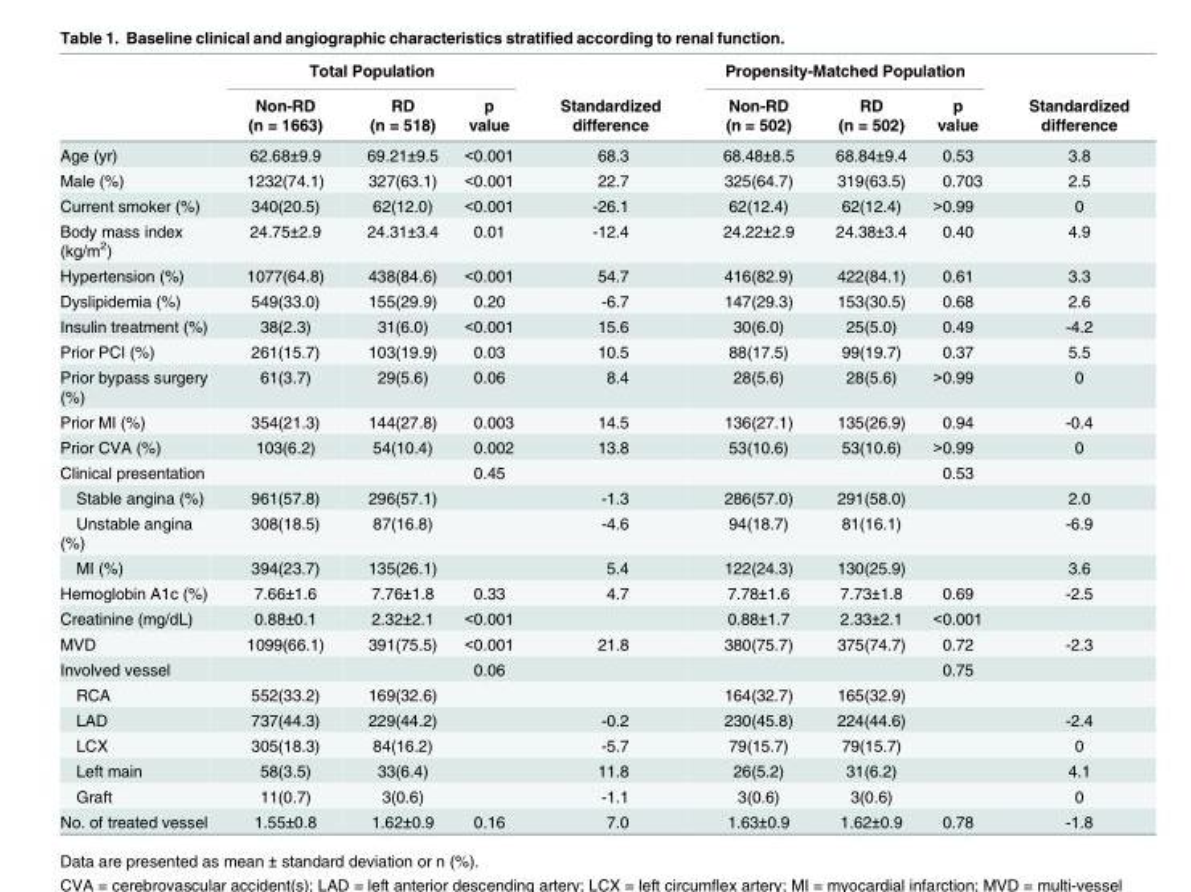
<table><thead><tr><td rowspan="2"></td><td colspan="3">Total Population</td><td rowspan="2">Standardized difference</td><td colspan="3">Propensity-Matched Population</td><td rowspan="2">Standardized difference</td></tr><tr><td>Non-RD (n = 1663)</td><td>RD (n = 518)</td><td>p value</td><td>Non-RD (n = 502)</td><td>RD (n = 502)</td><td>p value</td></tr></thead><tbody><tr><td>Age (yr)</td><td>62.68±9.9</td><td>69.21±9.5</td><td>&lt;0.001</td><td>68.3</td><td>68.48±8.5</td><td>68.84±9.4</td><td>0.53</td><td>3.8</td></tr><tr><td>Male (%)</td><td>1232(74.1)</td><td>327(63.1)</td><td>&lt;0.001</td><td>22.7</td><td>325(64.7)</td><td>319(63.5)</td><td>0.703</td><td>2.5</td></tr><tr><td>Current smoker (%)</td><td>340(20.5)</td><td>62(12.0)</td><td>&lt;0.001</td><td>-26.1</td><td>62(12.4)</td><td>62(12.4)</td><td>&gt;0.99</td><td>0</td></tr><tr><td>Body mass index (kg/m<sup>2</sup>)</td><td>24.75±2.9</td><td>24.31±3.4</td><td>0.01</td><td>-12.4</td><td>24.22±2.9</td><td>24.38±3.4</td><td>0.40</td><td>4.9</td></tr><tr><td>Hypertension (%)</td><td>1077(64.8)</td><td>438(84.6)</td><td>&lt;0.001</td><td>54.7</td><td>416(82.9)</td><td>422(84.1)</td><td>0.61</td><td>3.3</td></tr><tr><td>Dyslipidemia (%)</td><td>549(33.0)</td><td>155(29.9)</td><td>0.20</td><td>-6.7</td><td>147(29.3)</td><td>153(30.5)</td><td>0.68</td><td>2.6</td></tr><tr><td>Insulin treatment (%)</td><td>38(2.3)</td><td>31(6.0)</td><td>&lt;0.001</td><td>15.6</td><td>30(6.0)</td><td>25(5.0)</td><td>0.49</td><td>-4.2</td></tr><tr><td>Prior PCI (%)</td><td>261(15.7)</td><td>103(19.9)</td><td>0.03</td><td>10.5</td><td>88(17.5)</td><td>99(19.7)</td><td>0.37</td><td>5.5</td></tr><tr><td>Prior bypass surgery (%)</td><td>61(3.7)</td><td>29(5.6)</td><td>0.06</td><td>8.4</td><td>28(5.6)</td><td>28(5.6)</td><td>&gt;0.99</td><td>0</td></tr><tr><td>Prior MI (%)</td><td>354(21.3)</td><td>144(27.8)</td><td>0.003</td><td>14.5</td><td>136(27.1)</td><td>135(26.9)</td><td>0.94</td><td>-0.4</td></tr><tr><td>Prior CVA (%)</td><td>103(6.2)</td><td>54(10.4)</td><td>0.002</td><td>13.8</td><td>53(10.6)</td><td>53(10.6)</td><td>&gt;0.99</td><td>0</td></tr><tr><td>Clinical presentation</td><td></td><td></td><td>0.45</td><td></td><td></td><td></td><td>0.53</td><td></td></tr><tr><td>Stable angina (%)</td><td>961(57.8)</td><td>296(57.1)</td><td></td><td>-1.3</td><td>286(57.0)</td><td>291(58.0)</td><td></td><td>2.0</td></tr><tr><td>Unstable angina (%)</td><td>308(18.5)</td><td>87(16.8)</td><td></td><td>-4.6</td><td>94(18.7)</td><td>81(16.1)</td><td></td><td>-6.9</td></tr><tr><td>MI (%)</td><td>394(23.7)</td><td>135(26.1)</td><td></td><td>5.4</td><td>122(24.3)</td><td>130(25.9)</td><td></td><td>3.6</td></tr><tr><td>Hemoglobin A1c (%)</td><td>7.66±1.6</td><td>7.76±1.8</td><td>0.33</td><td>4.7</td><td>7.78±1.6</td><td>7.73±1.8</td><td>0.69</td><td>-2.5</td></tr><tr><td>Creatinine (mg/dL)</td><td>0.88±0.1</td><td>2.32±2.1</td><td>&lt;0.001</td><td></td><td>0.88±1.7</td><td>2.33±2.1</td><td>&lt;0.001</td><td></td></tr><tr><td>MVD</td><td>1099(66.1)</td><td>391(75.5)</td><td>&lt;0.001</td><td>21.8</td><td>380(75.7)</td><td>375(74.7)</td><td>0.72</td><td>-2.3</td></tr><tr><td>Involved vessel</td><td></td><td></td><td>0.06</td><td></td><td></td><td></td><td>0.75</td><td></td></tr><tr><td>RCA</td><td>552(33.2)</td><td>169(32.6)</td><td></td><td></td><td>164(32.7)</td><td>165(32.9)</td><td></td><td></td></tr><tr><td>LAD</td><td>737(44.3)</td><td>229(44.2)</td><td></td><td>-0.2</td><td>230(45.8)</td><td>224(44.6)</td><td></td><td>-2.4</td></tr><tr><td>LCX</td><td>305(18.3)</td><td>84(16.2)</td><td></td><td>-5.7</td><td>79(15.7)</td><td>79(15.7)</td><td></td><td>0</td></tr><tr><td>Left main</td><td>58(3.5)</td><td>33(6.4)</td><td></td><td>11.8</td><td>26(5.2)</td><td>31(6.2)</td><td></td><td>4.1</td></tr><tr><td>Graft</td><td>11(0.7)</td><td>3(0.6)</td><td></td><td>-1.1</td><td>3(0.6)</td><td>3(0.6)</td><td></td><td>0</td></tr><tr><td>No. of treated vessel</td><td>1.55±0.8</td><td>1.62±0.9</td><td>0.16</td><td>7.0</td><td>1.63±0.9</td><td>1.62±0.9</td><td>0.78</td><td>-1.8</td></tr></tbody></table>